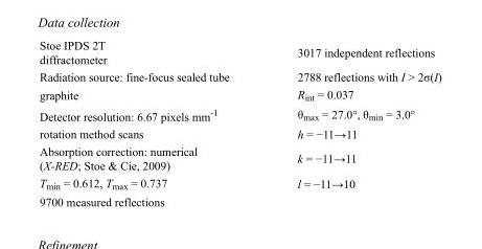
<table><tbody><tr><td>Stoe IPDS 2T diffractometer</td><td>3017 independent reflections</td></tr><tr><td>Radiation source: fine-focus sealed tube</td><td>2788 reflections with I &gt; 2σ(I)</td></tr><tr><td>graphite</td><td>R<sub>int</sub> = 0.037</td></tr><tr><td>Detector resolution: 6.67 pixels mm<sup>-1</sup></td><td>θ<sub>max</sub> = 27.0°, θ<sub>min</sub> = 3.0°</td></tr><tr><td>rotation method scans</td><td>h = −11→11</td></tr><tr><td>Absorption correction: numerical (X-RED; Stoe &amp; Cie, 2009)</td><td>k = −11→11</td></tr><tr><td>T<sub>min</sub> = 0.612, T<sub>max</sub> = 0.737</td><td>l = −11→10</td></tr><tr><td>9700 measured reflections</td><td></td></tr></tbody></table>